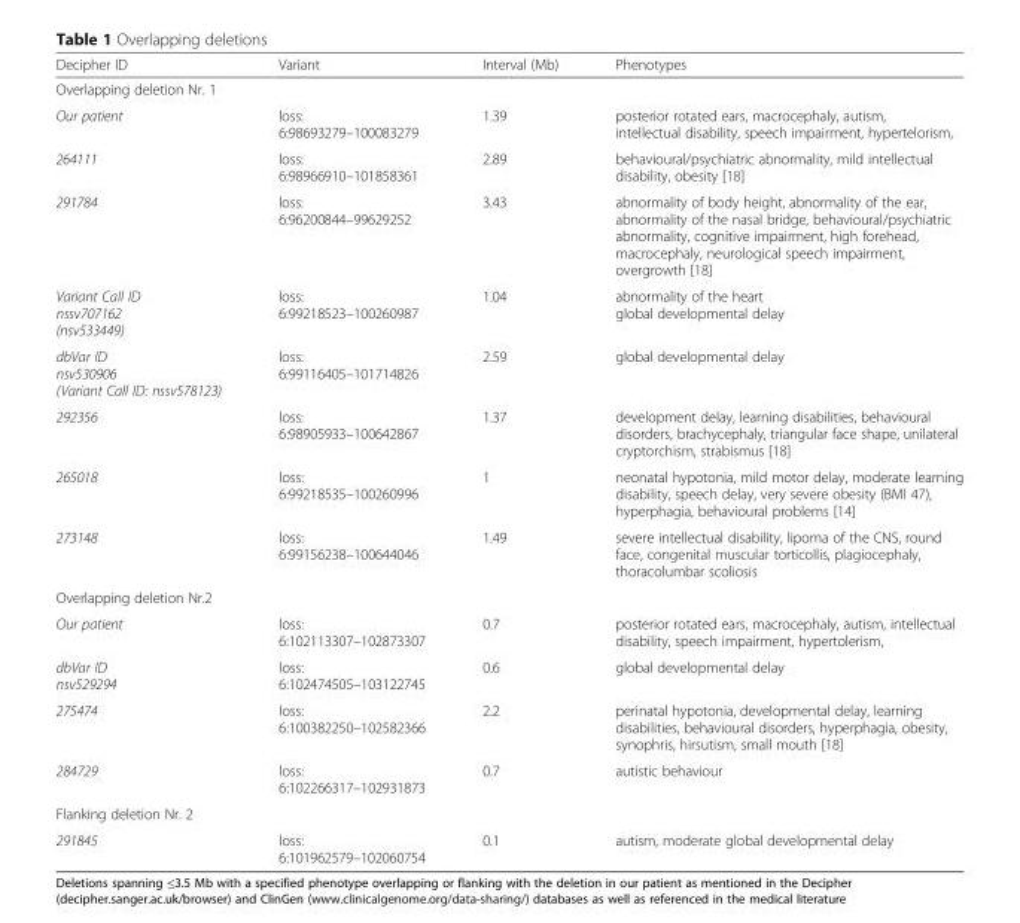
<table><thead><tr><td>Decipher ID</td><td>Variant</td><td>Interval (Mb)</td><td>Phenotypes</td></tr></thead><tbody><tr><td colspan="4">Overlapping deletion Nr. 1</td></tr><tr><td>Our patient</td><td>loss: 6:98693279–100083279</td><td>1.39</td><td>posterior rotated ears, macrocephaly, autism, intellectual disability, speech impairment, hypertelorism,</td></tr><tr><td>264111</td><td>loss: 6:98966910–101858361</td><td>2.89</td><td>behavioural/psychiatric abnormality, mild intellectual disability, obesity [18]</td></tr><tr><td>291784</td><td>loss: 6:96200844–99629252</td><td>3.43</td><td>abnormality of body height, abnormality of the ear, abnormality of the nasal bridge, behavioural/psychiatric abnormality, cognitive impairment, high forehead, macrocephaly, neurological speech impairment, overgrowth [18]</td></tr><tr><td>Variant Call ID nssv707162 (nsv533449)</td><td>loss: 6:99218523–100260987</td><td>1.04</td><td>abnormality of the heart global developmental delay</td></tr><tr><td>dbVar ID nsv530906 (Variant Call ID: nssv578123)</td><td>loss: 6:99116405–101714826</td><td>2.59</td><td>global developmental delay</td></tr><tr><td>292356</td><td>loss: 6:98905933–100642867</td><td>1.37</td><td>development delay, learning disabilities, behavioural disorders, brachycephaly, triangular face shape, unilateral cryptorchism, strabismus [18]</td></tr><tr><td>265018</td><td>loss: 6:99218535–100260996</td><td>1</td><td>neonatal hypotonia, mild motor delay, moderate learning disability, speech delay, very severe obesity (BMI 47), hyperphagia, behavioural problems [14]</td></tr><tr><td>273148</td><td>loss: 6:99156238–100644046</td><td>1.49</td><td>severe intellectual disability, lipoma of the CNS, round face, congenital muscular torticollis, plagiocephaly, thoracolumbar scoliosis</td></tr><tr><td colspan="4">Overlapping deletion Nr.2</td></tr><tr><td>Our patient</td><td>loss: 6:102113307–102873307</td><td>0.7</td><td>posterior rotated ears, macrocephaly, autism, intellectual disability, speech impairment, hypertolerism,</td></tr><tr><td>dbVar ID nsv529294</td><td>loss: 6:102474505–103122745</td><td>0.6</td><td>global developmental delay</td></tr><tr><td>275474</td><td>loss: 6:100382250–102582366</td><td>2.2</td><td>perinatal hypotonia, developmental delay, learning disabilities, behavioural disorders, hyperphagia, obesity, synophris, hirsutism, small mouth [18]</td></tr><tr><td>284729</td><td>loss: 6:102266317–102931873</td><td>0.7</td><td>autistic behaviour</td></tr><tr><td colspan="4">Flanking deletion Nr. 2</td></tr><tr><td>291845</td><td>loss: 6:101962579–102060754</td><td>0.1</td><td>autism, moderate global developmental delay</td></tr></tbody></table>